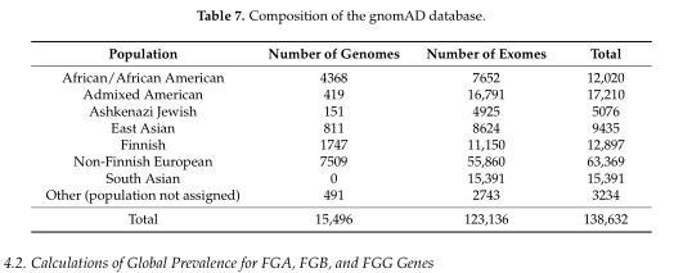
<table><thead><tr><td>Population</td><td>Number of Genomes</td><td>Number of Exomes</td><td>Total</td></tr></thead><tbody><tr><td>African/African American</td><td>4368</td><td>7652</td><td>12,020</td></tr><tr><td>Admixed American</td><td>419</td><td>16,791</td><td>17,210</td></tr><tr><td>Ashkenazi Jewish</td><td>151</td><td>4925</td><td>5076</td></tr><tr><td>East Asian</td><td>811</td><td>8624</td><td>9435</td></tr><tr><td>Finnish</td><td>1747</td><td>11,150</td><td>12,897</td></tr><tr><td>Non-Finnish European</td><td>7509</td><td>55,860</td><td>63,369</td></tr><tr><td>South Asian</td><td>0</td><td>15,391</td><td>15,391</td></tr><tr><td>Other (population not assigned)</td><td>491</td><td>2743</td><td>3234</td></tr><tr><td>Total</td><td>15,496</td><td>123,136</td><td>138,632</td></tr></tbody></table>